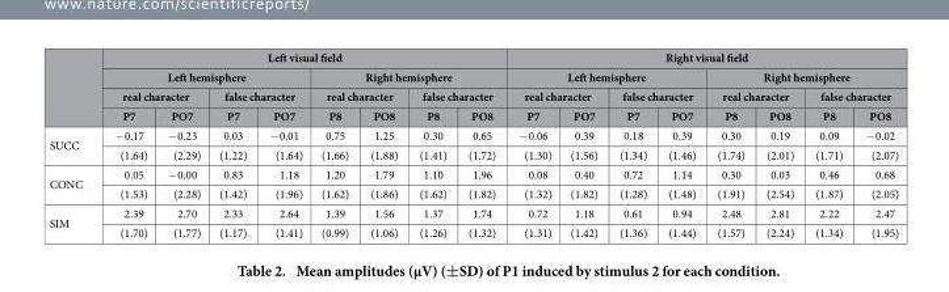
<table><thead><tr><td rowspan="4"></td><td colspan="8">Left visual field</td><td colspan="8">Right visual field</td></tr><tr><td colspan="4">Left hemisphere</td><td colspan="4">Right hemisphere</td><td colspan="4">Left hemisphere</td><td colspan="4">Right hemisphere</td></tr><tr><td colspan="2">real character</td><td colspan="2">false character</td><td colspan="2">real character</td><td colspan="2">false character</td><td colspan="2">real character</td><td colspan="2">false character</td><td colspan="2">real character</td><td colspan="2">false character</td></tr><tr><td>P7</td><td>PO7</td><td>P7</td><td>PO7</td><td>P8</td><td>PO8</td><td>P8</td><td>PO8</td><td>P7</td><td>PO7</td><td>P7</td><td>PO7</td><td>P8</td><td>PO8</td><td>P8</td><td>PO8</td></tr></thead><tbody><tr><td rowspan="2">SUCC</td><td>− 0.17</td><td>− 0.23</td><td>0.03</td><td>− 0.01</td><td>0.75</td><td>1.25</td><td>0.30</td><td>0.65</td><td>− 0.06</td><td>0.39</td><td>0.18</td><td>0.39</td><td>0.30</td><td>0.19</td><td>0.09</td><td>− 0.02</td></tr><tr><td>(1.64)</td><td>(2.29)</td><td>(1.22)</td><td>(1.64)</td><td>(1.66)</td><td>(1.88)</td><td>(1.41)</td><td>(1.72)</td><td>(1.30)</td><td>(1.56)</td><td>(1.34)</td><td>(1.46)</td><td>(1.74)</td><td>(2.01)</td><td>(1.71)</td><td>(2.07)</td></tr><tr><td rowspan="2">CONC</td><td>0.05</td><td>− 0.00</td><td>0.83</td><td>1.18</td><td>1.20</td><td>1.79</td><td>1.10</td><td>1.96</td><td>0.08</td><td>0.40</td><td>0.72</td><td>1.14</td><td>0.30</td><td>0.03</td><td>0.46</td><td>0.68</td></tr><tr><td>(1.53)</td><td>(2.28)</td><td>(1.42)</td><td>(1.96)</td><td>(1.62)</td><td>(1.86)</td><td>(1.62)</td><td>(1.82)</td><td>(1.32)</td><td>(1.82)</td><td>(1.28)</td><td>(1.48)</td><td>(1.91)</td><td>(2.54)</td><td>(1.87)</td><td>(2.05)</td></tr><tr><td rowspan="2">SIM</td><td>2.39</td><td>2.70</td><td>2.33</td><td>2.64</td><td>1.39</td><td>1.56</td><td>1.37</td><td>1.74</td><td>0.72</td><td>1.18</td><td>0.61</td><td>0.94</td><td>2.48</td><td>2.81</td><td>2.22</td><td>2.47</td></tr><tr><td>(1.70)</td><td>(1.77)</td><td>(1.17)</td><td>(1.41)</td><td>(0.99)</td><td>(1.06)</td><td>(1.26)</td><td>(1.32)</td><td>(1.31)</td><td>(1.42)</td><td>(1.36)</td><td>(1.44)</td><td>(1.57)</td><td>(2.24)</td><td>(1.34)</td><td>(1.95)</td></tr></tbody></table>